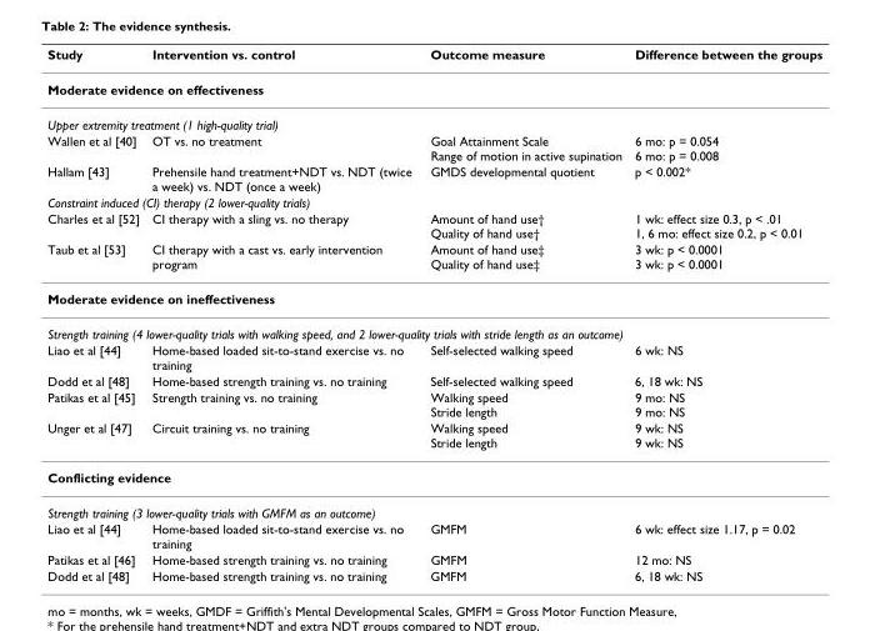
<table><thead><tr><td>Study</td><td>Intervention vs. control</td><td>Outcome measure</td><td>Difference between the groups</td></tr></thead><tbody><tr><td colspan="4">Moderate evidence on effectiveness</td></tr><tr><td colspan="4">Upper extremity treatment (1 high-quality trial)</td></tr><tr><td>Wallen et al [40]</td><td>OT vs. no treatment</td><td>Goal Attainment Scale Range of motion in active supination</td><td>6 mo: p = 0.054 6 mo: p = 0.008</td></tr><tr><td>Hallam [43]</td><td>Prehensile hand treatment+NDT vs. NDT (twice a week) vs. NDT (once a week)</td><td>GMDS developmental quotient</td><td>p &lt; 0.002*</td></tr><tr><td colspan="4">Constraint induced (CI) therapy (2 lower-quality trials)</td></tr><tr><td>Charles et al [52]</td><td>CI therapy with a sling vs. no therapy</td><td>Amount of hand use† Quality of hand use†</td><td>1 wk: effect size 0.3, p &lt; .01 1, 6 mo: effect size 0.2, p &lt; 0.01</td></tr><tr><td>Taub et al [53]</td><td>CI therapy with a cast vs. early intervention program</td><td>Amount of hand use‡ Quality of hand use‡</td><td>3 wk: p &lt; 0.0001 3 wk: p &lt; 0.0001</td></tr><tr><td colspan="4">Moderate evidence on ineffectiveness</td></tr><tr><td colspan="4">Strength training (4 lower-quality trials with walking speed, and 2 lower-quality trials with stride length as an outcome)</td></tr><tr><td>Liao et al [44]</td><td>Home-based loaded sit-to-stand exercise vs. no training</td><td>Self-selected walking speed</td><td>6 wk: NS</td></tr><tr><td>Dodd et al [48]</td><td>Home-based strength training vs. no training</td><td>Self-selected walking speed</td><td>6, 18 wk: NS</td></tr><tr><td>Patikas et al [45]</td><td>Strength training vs. no training</td><td>Walking speed Stride length</td><td>9 mo: NS 9 mo: NS</td></tr><tr><td>Unger et al [47]</td><td>Circuit training vs. no training</td><td>Walking speed Stride length</td><td>9 wk: NS 9 wk: NS</td></tr><tr><td colspan="4">Conflicting evidence</td></tr><tr><td colspan="4">Strength training (3 lower-quality trials with GMFM as an outcome)</td></tr><tr><td>Liao et al [44]</td><td>Home-based loaded sit-to-stand exercise vs. no training</td><td>GMFM</td><td>6 wk: effect size 1.17, p = 0.02</td></tr><tr><td>Patikas et al [46]</td><td>Home-based strength training vs. no training</td><td>GMFM</td><td>12 mo: NS</td></tr><tr><td>Dodd et al [48]</td><td>Home-based strength training vs. no training</td><td>GMFM</td><td>6, 18 wk: NS</td></tr></tbody></table>